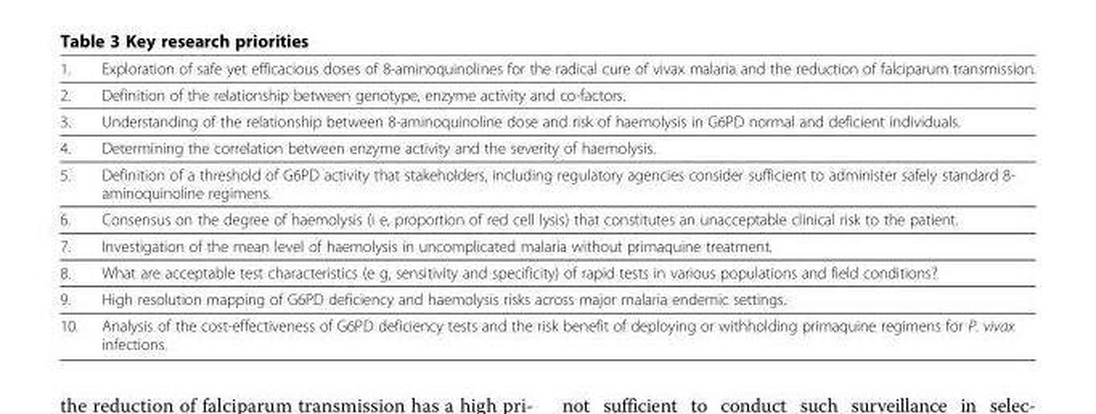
<table><tbody><tr><td>1.</td><td>Exploration of safe yet efficacious doses of 8-aminoquinolines for the radical cure of vivax malaria and the reduction of falciparum transmission.</td></tr><tr><td>2.</td><td>Definition of the relationship between genotype, enzyme activity and co-factors.</td></tr><tr><td>3.</td><td>Understanding of the relationship between 8-aminoquinoline dose and risk of haemolysis in G6PD normal and deficient individuals.</td></tr><tr><td>4.</td><td>Determining the correlation between enzyme activity and the severity of haemolysis.</td></tr><tr><td>5.</td><td>Definition of a threshold of G6PD activity that stakeholders, including regulatory agencies consider sufficient to administer safely standard 8- aminoquinoline regimens.</td></tr><tr><td>6.</td><td>Consensus on the degree of haemolysis (i e, proportion of red cell lysis) that constitutes an unacceptable clinical risk to the patient.</td></tr><tr><td>7.</td><td>Investigation of the mean level of haemolysis in uncomplicated malaria without primaquine treatment.</td></tr><tr><td>8.</td><td>What are acceptable test characteristics (e g, sensitivity and specificity) of rapid tests in various populations and field conditions?</td></tr><tr><td>9.</td><td>High resolution mapping of G6PD deficiency and haemolysis risks across major malaria endemic settings.</td></tr><tr><td>10.</td><td>Analysis of the cost-effectiveness of G6PD deficiency tests and the risk benefit of deploying or withholding primaquine regimens for P. vivax infections.</td></tr></tbody></table>